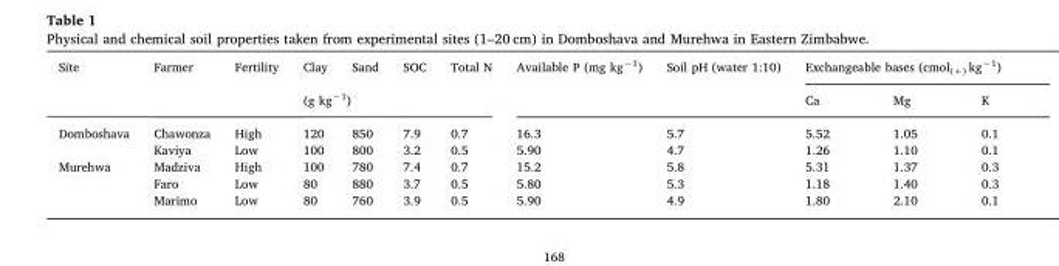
<table><thead><tr><td rowspan="2">Site</td><td rowspan="2">Farmer</td><td rowspan="2">Fertility</td><td>Clay</td><td>Sand</td><td>SOC</td><td>Total N</td><td rowspan="2">Available P (mg kg<sup>−1</sup>)</td><td rowspan="2">Soil pH (water 1:10)</td><td colspan="3">Exchangeable bases (cmol<sub>(+)</sub> kg<sup>−1</sup>)</td></tr><tr><td colspan="4">(g kg<sup>−1</sup>)</td><td>Ca</td><td>Mg</td><td>K</td></tr></thead><tbody><tr><td rowspan="2">Domboshava</td><td>Chawonza</td><td>High</td><td>120</td><td>850</td><td>7.9</td><td>0.7</td><td>16.3</td><td>5.7</td><td>5.52</td><td>1.05</td><td>0.1</td></tr><tr><td>Kaviya</td><td>Low</td><td>100</td><td>800</td><td>3.2</td><td>0.5</td><td>5.90</td><td>4.7</td><td>1.26</td><td>1.10</td><td>0.1</td></tr><tr><td rowspan="3">Murehwa</td><td>Madziva</td><td>High</td><td>100</td><td>780</td><td>7.4</td><td>0.7</td><td>15.2</td><td>5.8</td><td>5.31</td><td>1.37</td><td>0.3</td></tr><tr><td>Faro</td><td>Low</td><td>80</td><td>880</td><td>3.7</td><td>0.5</td><td>5.80</td><td>5.3</td><td>1.18</td><td>1.40</td><td>0.3</td></tr><tr><td>Marimo</td><td>Low</td><td>80</td><td>760</td><td>3.9</td><td>0.5</td><td>5.90</td><td>4.9</td><td>1.80</td><td>2.10</td><td>0.1</td></tr></tbody></table>